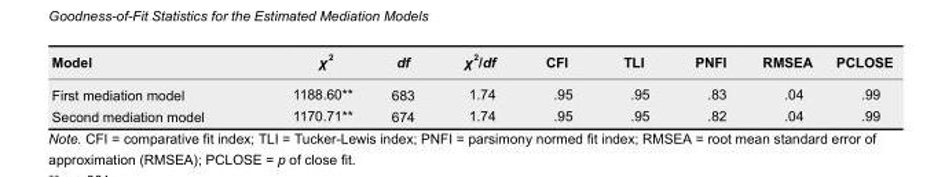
<table><thead><tr><td>Model</td><td>χ <sup>2</sup></td><td>df</td><td>χ <sup>2</sup>/df</td><td>CFI</td><td>TLI</td><td>PNFI</td><td>RMSEA</td><td>PCLOSE</td></tr></thead><tbody><tr><td>First mediation model</td><td>1188.60**</td><td>683</td><td>1.74</td><td>.95</td><td>.95</td><td>.83</td><td>.04</td><td>.99</td></tr><tr><td>Second mediation model</td><td>1170.71**</td><td>674</td><td>1.74</td><td>.95</td><td>.95</td><td>.82</td><td>.04</td><td>.99</td></tr></tbody></table>